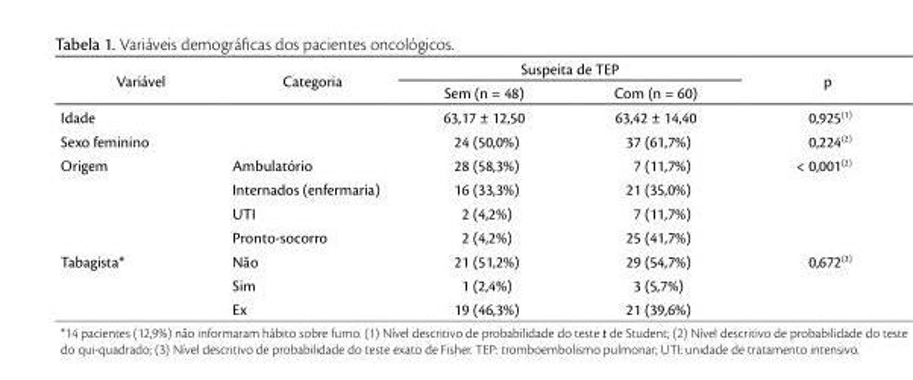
<table><thead><tr><td rowspan="2">Variável</td><td rowspan="2">Categoria</td><td colspan="2">Suspeita de TEP</td><td rowspan="2">p</td></tr><tr><td>Sem (n = 48)</td><td>Com (n = 60)</td></tr></thead><tbody><tr><td>Idade</td><td></td><td>63,17 ± 12,50</td><td>63,42 ± 14,40</td><td>0,925(1)</td></tr><tr><td>Sexo feminino</td><td></td><td>24 (50,0%)</td><td>37 (61,7%)</td><td>0,224(2)</td></tr><tr><td rowspan="4">Origem</td><td>Ambulatório</td><td>28 (58,3%)</td><td>7 (11,7%)</td><td>&lt; 0,001(2)</td></tr><tr><td>Internados (enfermaria)</td><td>16 (33,3%)</td><td>21 (35,0%)</td><td></td></tr><tr><td>UTI</td><td>2 (4,2%)</td><td>7 (11,7%)</td><td></td></tr><tr><td>Pronto-socorro</td><td>2 (4,2%)</td><td>25 (41,7%)</td><td></td></tr><tr><td rowspan="3">Tabagista*</td><td>Não</td><td>21 (51,2%)</td><td>29 (54,7%)</td><td>0,672(3)</td></tr><tr><td>Sim</td><td>1 (2,4%)</td><td>3 (5,7%)</td><td></td></tr><tr><td>Ex</td><td>19 (46,3%)</td><td>21 (39,6%)</td><td></td></tr></tbody></table>